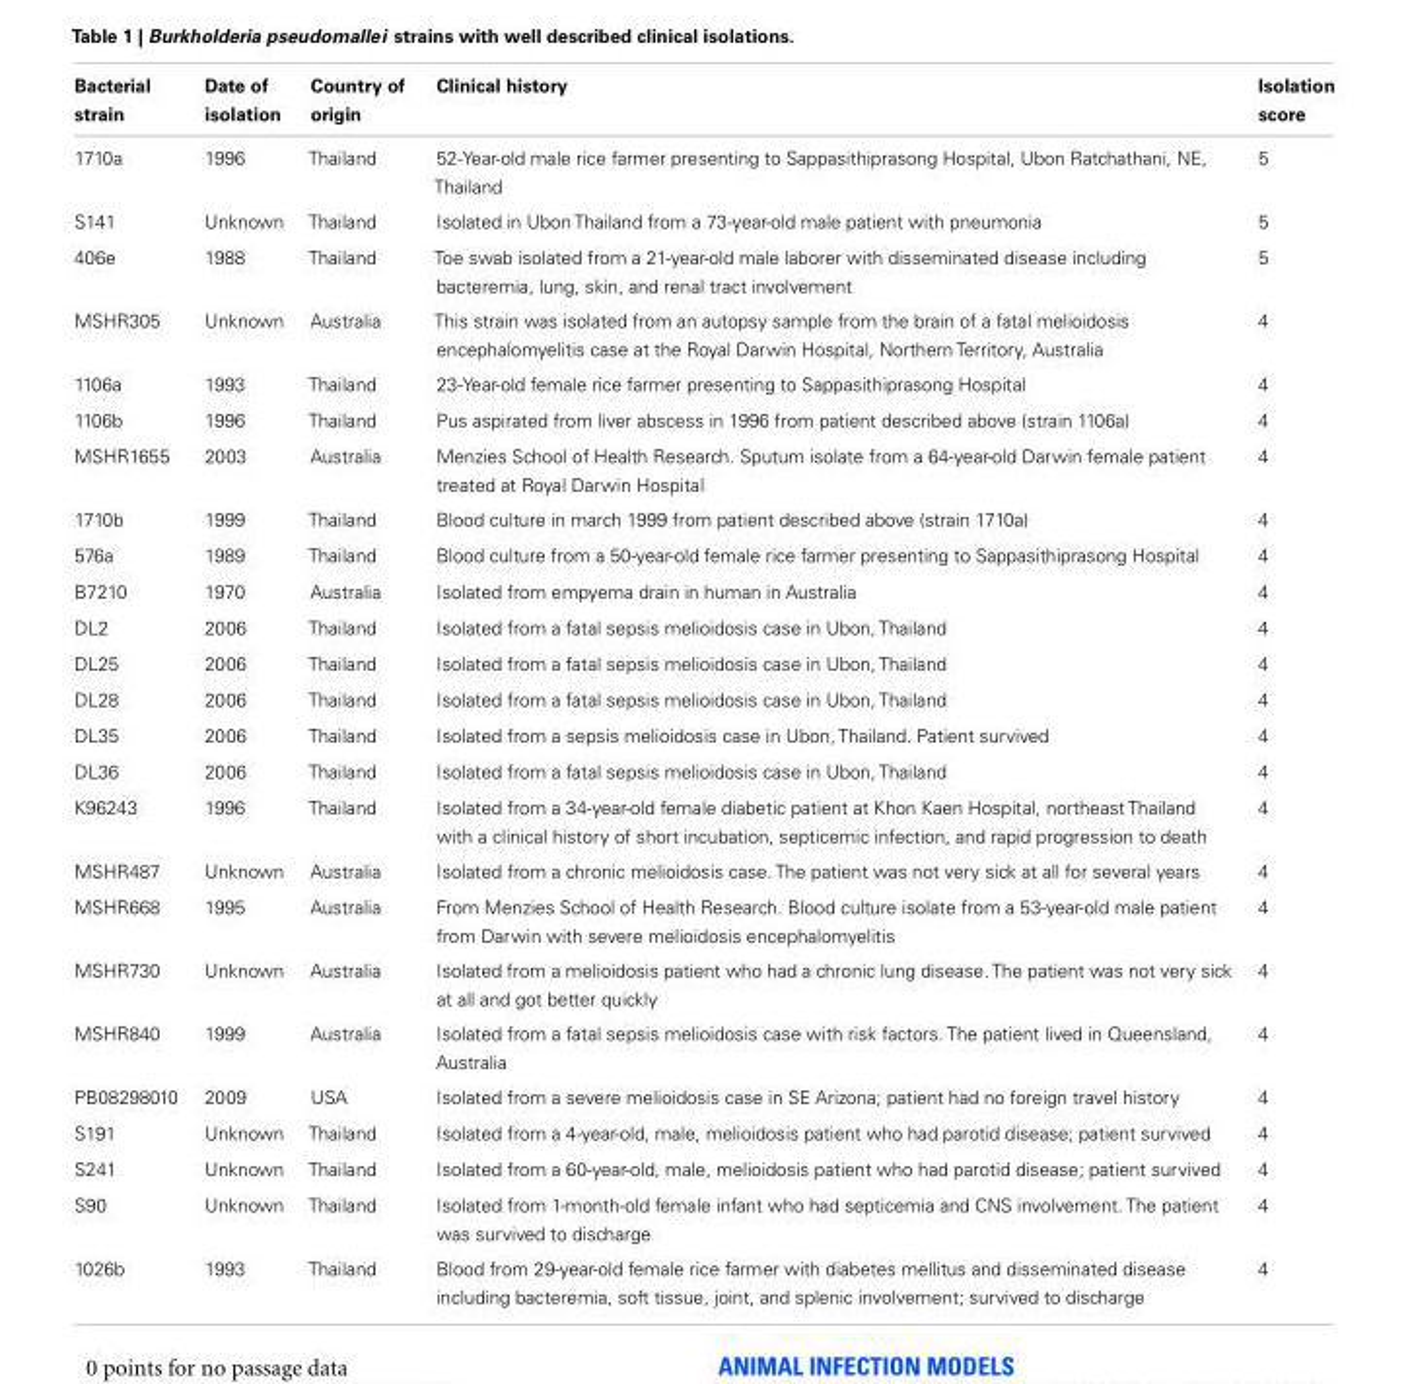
<table><thead><tr><td>Bacterial strain</td><td>Date of isolation</td><td>Country of origin</td><td>Clinical history</td><td>Isolation score</td></tr></thead><tbody><tr><td>1710a</td><td>1996</td><td>Thailand</td><td>52-Year-old male rice farmer presenting to Sappasithiprasong Hospital, Ubon Ratchathani, NE, Thailand</td><td>5</td></tr><tr><td>S141</td><td>Unknown</td><td>Thailand</td><td>Isolated in Ubon Thailand from a 73-year-old male patient with pneumonia</td><td>5</td></tr><tr><td>406e</td><td>1988</td><td>Thailand</td><td>Toe swab isolated from a 21-year-old male laborer with disseminated disease including bacteremia, lung, skin, and renal tract involvement</td><td>5</td></tr><tr><td>MSHR305</td><td>Unknown</td><td>Australia</td><td>This strain was isolated from an autopsy sample from the brain of a fatal melioidosis encephalomyelitis case at the Royal Darwin Hospital, Northern Territory, Australia</td><td>4</td></tr><tr><td>1106a</td><td>1993</td><td>Thailand</td><td>23-Year-old female rice farmer presenting to Sappasithiprasong Hospital</td><td>4</td></tr><tr><td>1106b</td><td>1996</td><td>Thailand</td><td>Pus aspirated from liver abscess in 1996 from patient described above (strain 1106a)</td><td>4</td></tr><tr><td>MSHR1655</td><td>2003</td><td>Australia</td><td>Menzies School of Health Research. Sputum isolate from a 64-year-old Darwin female patient treated at Royal Darwin Hospital</td><td>4</td></tr><tr><td>1710b</td><td>1999</td><td>Thailand</td><td>Blood culture in march 1999 from patient described above (strain 1710a)</td><td>4</td></tr><tr><td>576a</td><td>1989</td><td>Thailand</td><td>Blood culture from a 50-year-old female rice farmer presenting to Sappasithiprasong Hospital</td><td>4</td></tr><tr><td>B7210</td><td>1970</td><td>Australia</td><td>Isolated from empyema drain in human in Australia</td><td>4</td></tr><tr><td>DL2</td><td>2006</td><td>Thailand</td><td>Isolated from a fatal sepsis melioidosis case in Ubon, Thailand</td><td>4</td></tr><tr><td>DL25</td><td>2006</td><td>Thailand</td><td>Isolated from a fatal sepsis melioidosis case in Ubon, Thailand</td><td>4</td></tr><tr><td>DL28</td><td>2006</td><td>Thailand</td><td>Isolated from a fatal sepsis melioidosis case in Ubon, Thailand</td><td>4</td></tr><tr><td>DL35</td><td>2006</td><td>Thailand</td><td>Isolated from a sepsis melioidosis case in Ubon, Thailand. Patient survived</td><td>4</td></tr><tr><td>DL36</td><td>2006</td><td>Thailand</td><td>Isolated from a fatal sepsis melioidosis case in Ubon, Thailand</td><td>4</td></tr><tr><td>K96243</td><td>1996</td><td>Thailand</td><td>Isolated from a 34-year-old female diabetic patient at Khon Kaen Hospital, northeast Thailand with a clinical history of short incubation, septicemic infection, and rapid progression to death</td><td>4</td></tr><tr><td>MSHR487</td><td>Unknown</td><td>Australia</td><td>Isolated from a chronic melioidosis case. The patient was not very sick at all for several years</td><td>4</td></tr><tr><td>MSHR668</td><td>1995</td><td>Australia</td><td>From Menzies School of Health Research. Blood culture isolate from a 53-year-old male patient from Darwin with severe melioidosis encephalomyelitis</td><td>4</td></tr><tr><td>MSHR730</td><td>Unknown</td><td>Australia</td><td>Isolated from a melioidosis patient who had a chronic lung disease.The patient was not very sick at all and got better quickly</td><td>4</td></tr><tr><td>MSHR840</td><td>1999</td><td>Australia</td><td>Isolated from a fatal sepsis melioidosis case with risk factors. The patient lived in Queensland, Australia</td><td>4</td></tr><tr><td>PB08298010</td><td>2009</td><td>USA</td><td>Isolated from a severe melioidosis case in SE Arizona; patient had no foreign travel history</td><td>4</td></tr><tr><td>S191</td><td>Unknown</td><td>Thailand</td><td>Isolated from a 4-year-old, male, melioidosis patient who had parotid disease; patient survived</td><td>4</td></tr><tr><td>S241</td><td>Unknown</td><td>Thailand</td><td>Isolated from a 60-year-old, male, melioidosis patient who had parotid disease; patient survived</td><td>4</td></tr><tr><td>S90</td><td>Unknown</td><td>Thailand</td><td>Isolated from 1-month-old female infant who had septicemia and CNS involvement. The patient was survived to discharge</td><td>4</td></tr><tr><td>1026b</td><td>1993</td><td>Thailand</td><td>Blood from 29-year-old female rice farmer with diabetes mellitus and disseminated disease including bacteremia, soft tissue, joint, and splenic involvement; survived to discharge</td><td>4</td></tr></tbody></table>